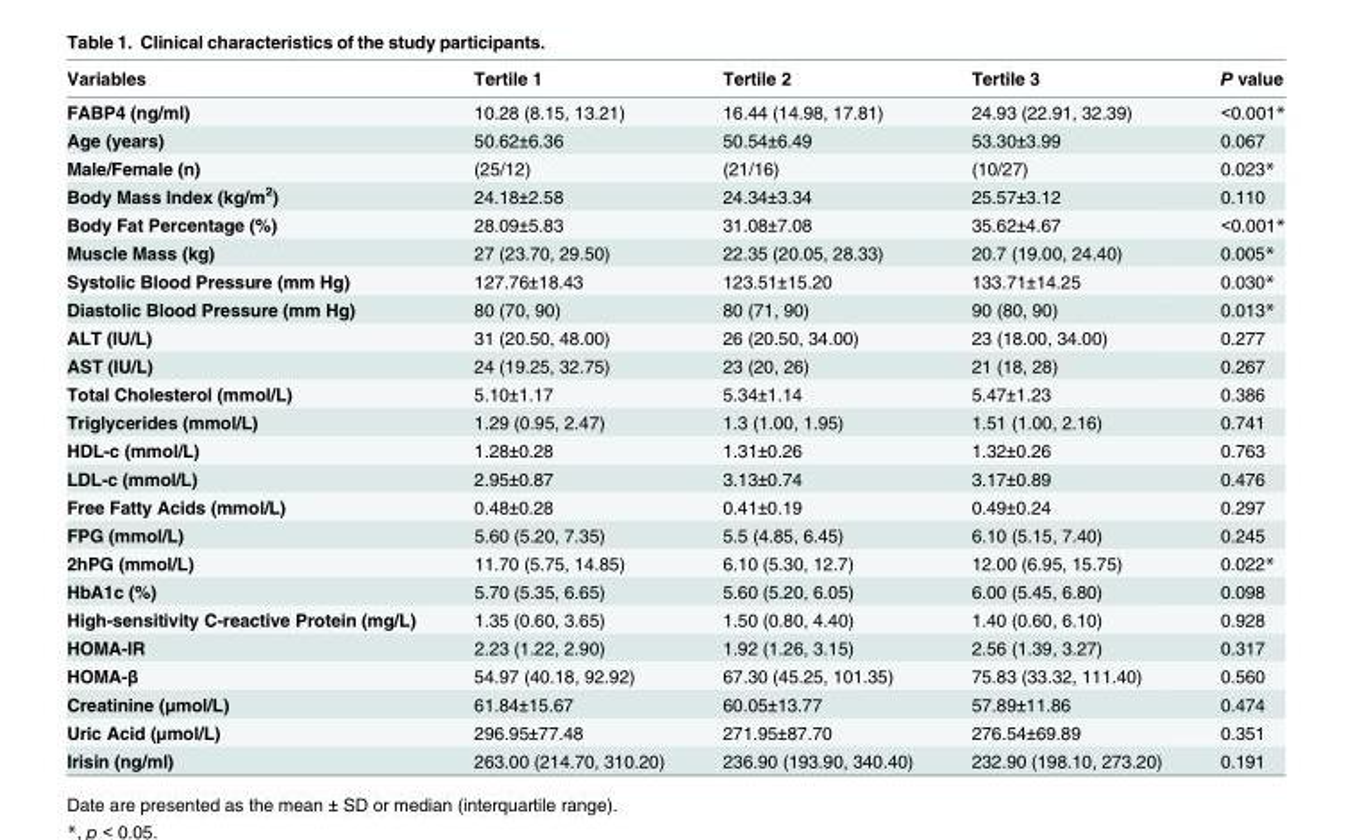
<table><thead><tr><td>Variables</td><td>Tertile 1</td><td>Tertile 2</td><td>Tertile 3</td><td>P value</td></tr></thead><tbody><tr><td>FABP4 (ng/ml)</td><td>10.28 (8.15, 13.21)</td><td>16.44 (14.98, 17.81)</td><td>24.93 (22.91, 32.39)</td><td>&lt;0.001*</td></tr><tr><td>Age (years)</td><td>50.62±6.36</td><td>50.54±6.49</td><td>53.30±3.99</td><td>0.067</td></tr><tr><td>Male/Female (n)</td><td>(25/12)</td><td>(21/16)</td><td>(10/27)</td><td>0.023*</td></tr><tr><td>Body Mass Index (kg/m<sup>2</sup>)</td><td>24.18±2.58</td><td>24.34±3.34</td><td>25.57±3.12</td><td>0.110</td></tr><tr><td>Body Fat Percentage (%)</td><td>28.09±5.83</td><td>31.08±7.08</td><td>35.62±4.67</td><td>&lt;0.001*</td></tr><tr><td>Muscle Mass (kg)</td><td>27 (23.70, 29.50)</td><td>22.35 (20.05, 28.33)</td><td>20.7 (19.00, 24.40)</td><td>0.005*</td></tr><tr><td>Systolic Blood Pressure (mm Hg)</td><td>127.76±18.43</td><td>123.51±15.20</td><td>133.71±14.25</td><td>0.030*</td></tr><tr><td>Diastolic Blood Pressure (mm Hg)</td><td>80 (70, 90)</td><td>80 (71, 90)</td><td>90 (80, 90)</td><td>0.013*</td></tr><tr><td>ALT (IU/L)</td><td>31 (20.50, 48.00)</td><td>26 (20.50, 34.00)</td><td>23 (18.00, 34.00)</td><td>0.277</td></tr><tr><td>AST (IU/L)</td><td>24 (19.25, 32.75)</td><td>23 (20, 26)</td><td>21 (18, 28)</td><td>0.267</td></tr><tr><td>Total Cholesterol (mmol/L)</td><td>5.10±1.17</td><td>5.34±1.14</td><td>5.47±1.23</td><td>0.386</td></tr><tr><td>Triglycerides (mmol/L)</td><td>1.29 (0.95, 2.47)</td><td>1.3 (1.00, 1.95)</td><td>1.51 (1.00, 2.16)</td><td>0.741</td></tr><tr><td>HDL-c (mmol/L)</td><td>1.28±0.28</td><td>1.31±0.26</td><td>1.32±0.26</td><td>0.763</td></tr><tr><td>LDL-c (mmol/L)</td><td>2.95±0.87</td><td>3.13±0.74</td><td>3.17±0.89</td><td>0.476</td></tr><tr><td>Free Fatty Acids (mmol/L)</td><td>0.48±0.28</td><td>0.41±0.19</td><td>0.49±0.24</td><td>0.297</td></tr><tr><td>FPG (mmol/L)</td><td>5.60 (5.20, 7.35)</td><td>5.5 (4.85, 6.45)</td><td>6.10 (5.15, 7.40)</td><td>0.245</td></tr><tr><td>2hPG (mmol/L)</td><td>11.70 (5.75, 14.85)</td><td>6.10 (5.30, 12.7)</td><td>12.00 (6.95, 15.75)</td><td>0.022*</td></tr><tr><td>HbA1c (%)</td><td>5.70 (5.35, 6.65)</td><td>5.60 (5.20, 6.05)</td><td>6.00 (5.45, 6.80)</td><td>0.098</td></tr><tr><td>High-sensitivity C-reactive Protein (mg/L)</td><td>1.35 (0.60, 3.65)</td><td>1.50 (0.80, 4.40)</td><td>1.40 (0.60, 6.10)</td><td>0.928</td></tr><tr><td>HOMA-IR</td><td>2.23 (1.22, 2.90)</td><td>1.92 (1.26, 3.15)</td><td>2.56 (1.39, 3.27)</td><td>0.317</td></tr><tr><td>HOMA-β</td><td>54.97 (40.18, 92.92)</td><td>67.30 (45.25, 101.35)</td><td>75.83 (33.32, 111.40)</td><td>0.560</td></tr><tr><td>Creatinine (μmol/L)</td><td>61.84±15.67</td><td>60.05±13.77</td><td>57.89±11.86</td><td>0.474</td></tr><tr><td>Uric Acid (μmol/L)</td><td>296.95±77.48</td><td>271.95±87.70</td><td>276.54±69.89</td><td>0.351</td></tr><tr><td>Irisin (ng/ml)</td><td>263.00 (214.70, 310.20)</td><td>236.90 (193.90, 340.40)</td><td>232.90 (198.10, 273.20)</td><td>0.191</td></tr></tbody></table>